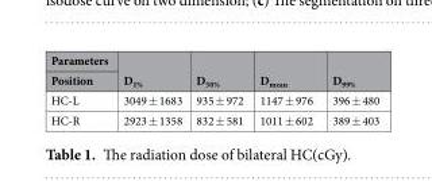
<table><thead><tr><td rowspan="2">Parameters Position</td><td rowspan="2">D<sub>1%</sub></td><td rowspan="2">D<sub>50%</sub></td><td rowspan="2">D<sub>mean</sub></td><td rowspan="2">D<sub>99%</sub></td></tr><tr></tr></thead><tbody><tr><td>HC-L</td><td>3049 ± 1683</td><td>935 ± 972</td><td>1147 ± 976</td><td>396 ± 480</td></tr><tr><td>HC-R</td><td>2923 ± 1358</td><td>832 ± 581</td><td>1011 ± 602</td><td>389 ± 403</td></tr></tbody></table>